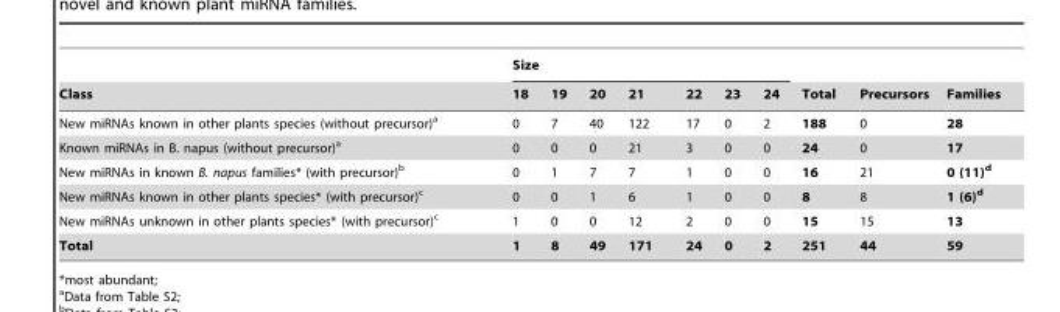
<table><thead><tr><td rowspan="2">Class</td><td colspan="7">Size</td><td rowspan="2">Total</td><td rowspan="2">Precursors</td><td rowspan="2">Families</td></tr><tr><td>18</td><td>19</td><td>20</td><td>21</td><td>22</td><td>23</td><td>24</td></tr></thead><tbody><tr><td>New miRNAs known in other plants species (without precursor)<sup>a</sup></td><td>0</td><td>7</td><td>40</td><td>122</td><td>17</td><td>0</td><td>2</td><td>188</td><td>0</td><td>28</td></tr><tr><td>Known miRNAs in B. napus (without precursor)<sup>a</sup></td><td>0</td><td>0</td><td>0</td><td>21</td><td>3</td><td>0</td><td>0</td><td>24</td><td>0</td><td>17</td></tr><tr><td>New miRNAs in known B. napus families* (with precursor)<sup>b</sup></td><td>0</td><td>1</td><td>7</td><td>7</td><td>1</td><td>0</td><td>0</td><td>16</td><td>21</td><td>0 (11)d</td></tr><tr><td>New miRNAs known in other plants species* (with precursor)<sup>c</sup></td><td>0</td><td>0</td><td>1</td><td>6</td><td>1</td><td>0</td><td>0</td><td>8</td><td>8</td><td>1 (6)d</td></tr><tr><td>New miRNAs unknown in other plants species* (with precursor)<sup>c</sup></td><td>1</td><td>0</td><td>0</td><td>12</td><td>2</td><td>0</td><td>0</td><td>15</td><td>15</td><td>13</td></tr><tr><td>Total</td><td>1</td><td>8</td><td>49</td><td>171</td><td>24</td><td>0</td><td>2</td><td>251</td><td>44</td><td>59</td></tr></tbody></table>